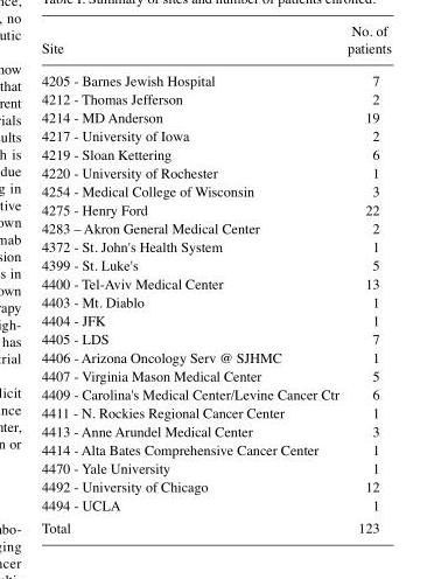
<table><thead><tr><td>Site</td><td>patients</td></tr></thead><tbody><tr><td>4205 - Barnes jewish Hospital</td><td>7</td></tr><tr><td>4212 - Thomas Jefferson</td><td>2</td></tr><tr><td>4214 - MD Anderson</td><td>19</td></tr><tr><td>4217 - University of Iowa</td><td>2</td></tr><tr><td>4219 - Sloan Kettering</td><td>6</td></tr><tr><td>4220 - University of Rochester</td><td>1</td></tr><tr><td>4254 - Medical College of Wisconsin</td><td>3</td></tr><tr><td>4275 - Henry Ford</td><td>22</td></tr><tr><td>4283 – Akron General Medical Center</td><td>2</td></tr><tr><td>4372 - St. john&#x27;s Health System</td><td>1</td></tr><tr><td>4399 - St. luke&#x27;s</td><td>5</td></tr><tr><td>4400 - Tel-Aviv Medical Center</td><td>13</td></tr><tr><td>4403 - Mt. Diablo</td><td>1</td></tr><tr><td>4404 - jFK</td><td>1</td></tr><tr><td>4405 - lDS</td><td>7</td></tr><tr><td>4406 - Arizona Oncology Serv @ SjHMC</td><td>1</td></tr><tr><td>4407 - virginia Mason Medical Center</td><td>5</td></tr><tr><td>4409 - Carolina&#x27;s Medical Center/levine Cancer Ctr</td><td>6</td></tr><tr><td>4411 - N. Rockies Regional Cancer Center</td><td>1</td></tr><tr><td>4413 - Anne Arundel Medical Center</td><td>3</td></tr><tr><td>4414 - Alta Bates Comprehensive Cancer Center</td><td>1</td></tr><tr><td>4470 - Yale University</td><td>1</td></tr><tr><td>4492 - University of Chicago</td><td>12</td></tr><tr><td>4494 - UCLA</td><td>1</td></tr><tr><td>Total</td><td>123</td></tr></tbody></table>